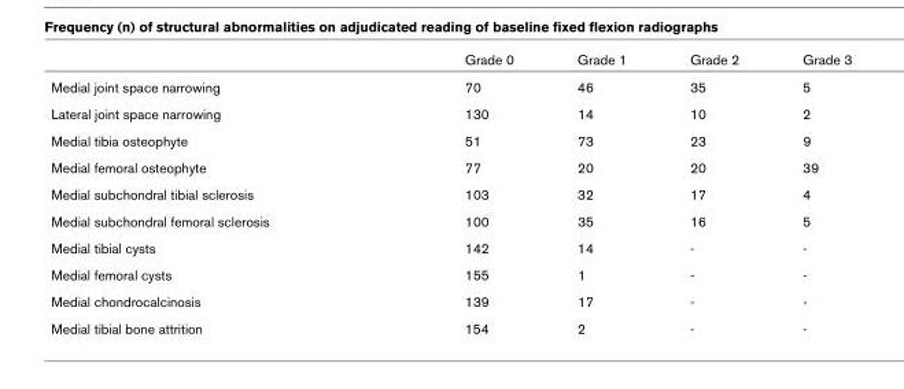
<table><thead><tr><td></td><td>Grade 0</td><td>Grade 1</td><td>Grade 2</td><td>Grade 3</td></tr></thead><tbody><tr><td>Medial joint space narrowing</td><td>70</td><td>46</td><td>35</td><td>5</td></tr><tr><td>Lateral joint space narrowing</td><td>130</td><td>14</td><td>10</td><td>2</td></tr><tr><td>Medial tibia osteophyte</td><td>51</td><td>73</td><td>23</td><td>9</td></tr><tr><td>Medial femoral osteophyte</td><td>77</td><td>20</td><td>20</td><td>39</td></tr><tr><td>Medial subchondral tibial sclerosis</td><td>103</td><td>32</td><td>17</td><td>4</td></tr><tr><td>Medial subchondral femoral sclerosis</td><td>100</td><td>35</td><td>16</td><td>5</td></tr><tr><td>Medial tibial cysts</td><td>142</td><td>14</td><td>-</td><td>-</td></tr><tr><td>Medial femoral cysts</td><td>155</td><td>1</td><td>-</td><td>-</td></tr><tr><td>Medial chondrocalcinosis</td><td>139</td><td>17</td><td>-</td><td>-</td></tr><tr><td>Medial tibial bone attrition</td><td>154</td><td>2</td><td>-</td><td>-</td></tr></tbody></table>